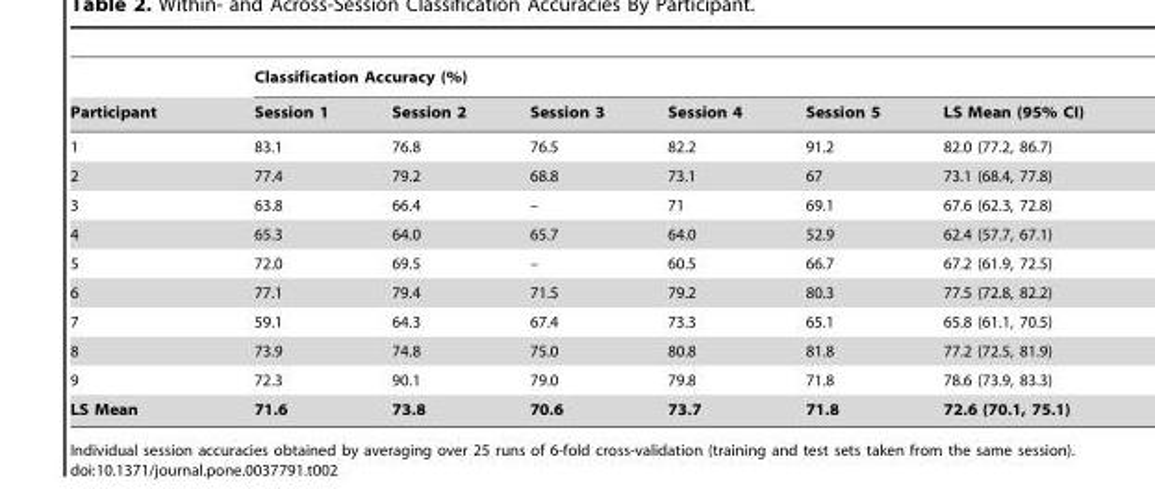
<table><thead><tr><td rowspan="2">Participant</td><td colspan="6">Classification Accuracy (%)</td></tr><tr><td>Session 1</td><td>Session 2</td><td>Session 3</td><td>Session 4</td><td>Session 5</td><td>LS Mean (95% CI)</td></tr></thead><tbody><tr><td>1</td><td>83.1</td><td>76.8</td><td>76.5</td><td>82.2</td><td>91.2</td><td>82.0 (77.2, 86.7)</td></tr><tr><td>2</td><td>77.4</td><td>79.2</td><td>68.8</td><td>73.1</td><td>67</td><td>73.1 (68.4, 77.8)</td></tr><tr><td>3</td><td>63.8</td><td>66.4</td><td>–</td><td>71</td><td>69.1</td><td>67.6 (62.3, 72.8)</td></tr><tr><td>4</td><td>65.3</td><td>64.0</td><td>65.7</td><td>64.0</td><td>52.9</td><td>62.4 (57.7, 67.1)</td></tr><tr><td>5</td><td>72.0</td><td>69.5</td><td>–</td><td>60.5</td><td>66.7</td><td>67.2 (61.9, 72.5)</td></tr><tr><td>6</td><td>77.1</td><td>79.4</td><td>71.5</td><td>79.2</td><td>80.3</td><td>77.5 (72.8, 82.2)</td></tr><tr><td>7</td><td>59.1</td><td>64.3</td><td>67.4</td><td>73.3</td><td>65.1</td><td>65.8 (61.1, 70.5)</td></tr><tr><td>8</td><td>73.9</td><td>74.8</td><td>75.0</td><td>80.8</td><td>81.8</td><td>77.2 (72.5, 81.9)</td></tr><tr><td>9</td><td>72.3</td><td>90.1</td><td>79.0</td><td>79.8</td><td>71.8</td><td>78.6 (73.9, 83.3)</td></tr><tr><td>LS Mean</td><td>71.6</td><td>73.8</td><td>70.6</td><td>73.7</td><td>71.8</td><td>72.6 (70.1, 75.1)</td></tr></tbody></table>